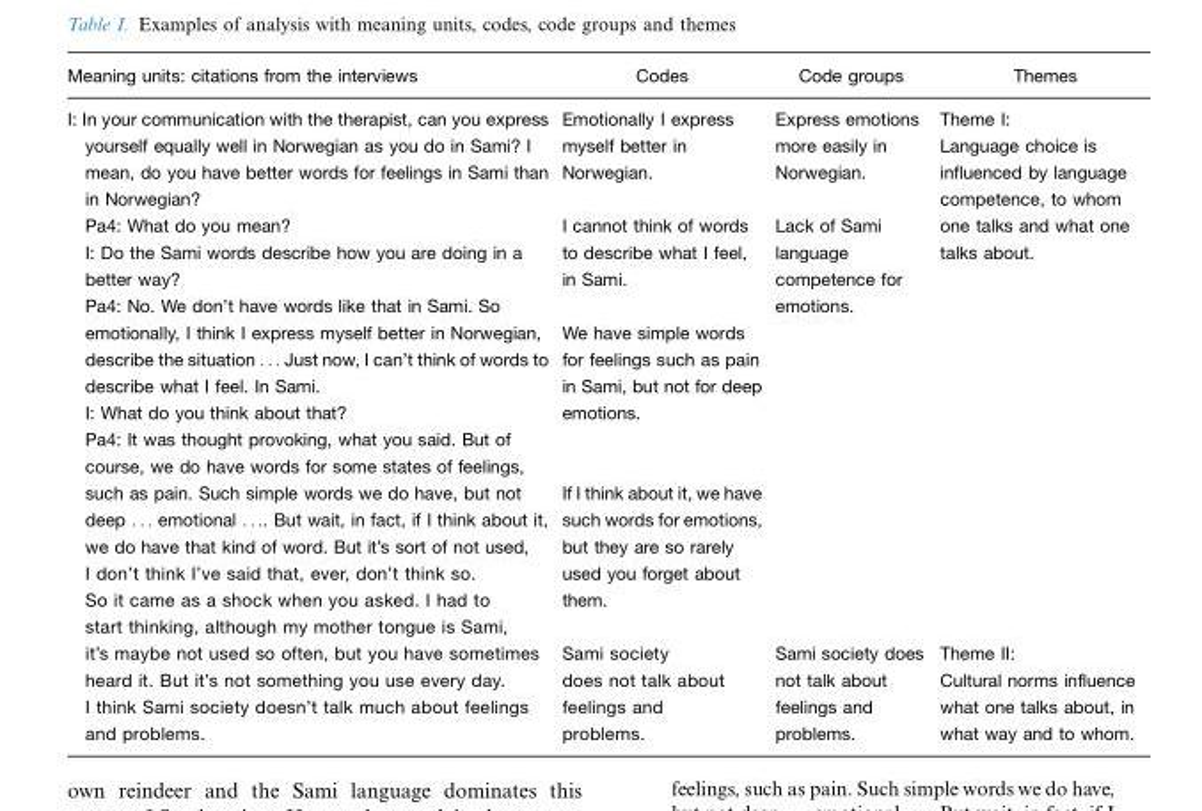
<table><thead><tr><td>Meaning units: citations from the interviews</td><td>Codes</td><td>Code groups</td><td>Themes</td></tr></thead><tbody><tr><td>I: In your communication with the therapist, can you express yourself equally well in Norwegian as you do in Sami? I mean, do you have better words for feelings in Sami than in Norwegian? Pa4: What do you mean? I: Do the Sami words describe how you are doing in a better way? Pa4: No. We don’t have words like that in Sami. So emotionally, I think I express myself better in Norwegian, describe the situation . . . Just now, I can’t think of words to describe what I feel. In Sami. I: What do you think about that? Pa4: It was thought provoking, what you said. But of course, we do have words for some states of feelings, such as pain. Such simple words we do have, but not deep . . . emotional . . .. But wait, in fact, if I think about it, we do have that kind of word. But it’s sort of not used, I don’t think I’ve said that, ever, don’t think so. So it came as a shock when you asked. I had to start thinking, although my mother tongue is Sami, it’s maybe not used so often, but you have sometimes heard it. But it’s not something you use every day. I think Sami society doesn’t talk much about feelings and problems.</td><td>Emotionally I express myself better in Norwegian. I cannot think of words to describe what I feel, in Sami. We have simple words for feelings such as pain in Sami, but not for deep emotions. If I think about it, we have such words for emotions, but they are so rarely used you forget about them. Sami society does not talk about feelings and problems.</td><td>Express emotions more easily in Norwegian. Lack of Sami language competence for emotions. Sami society does not talk about feelings and problems.</td><td>Theme I: Language choice is influenced by language competence, to whom one talks and what one talks about. Theme II: Cultural norms influence what one talks about, in what way and to whom.</td></tr></tbody></table>